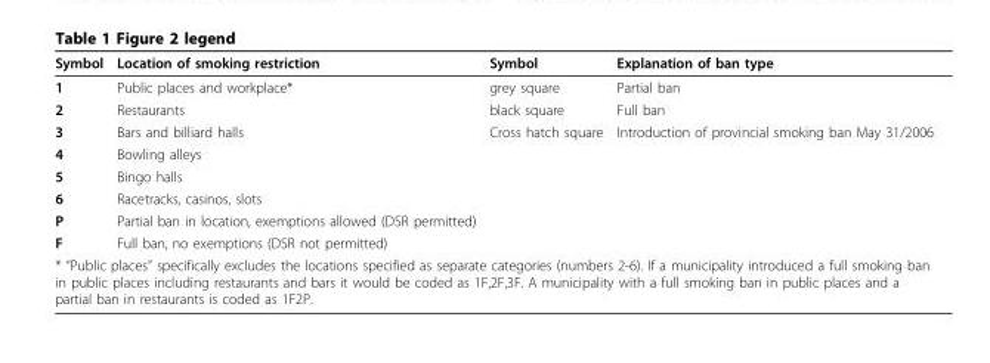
<table><tbody><tr><td>Symbol</td><td>Location of smoking restriction</td><td>Symbol</td><td>Explanation of ban type</td></tr><tr><td>1</td><td>Public places and workplace*</td><td>grey square</td><td>Partial ban</td></tr><tr><td>2</td><td>Restaurants</td><td>black square</td><td>Full ban</td></tr><tr><td>3</td><td>Bars and billiard halls</td><td>Cross hatch square</td><td>Introduction of provincial smoking ban May 31/2006</td></tr><tr><td>4</td><td>Bowling alleys</td><td></td><td></td></tr><tr><td>5</td><td>Bingo halls</td><td></td><td></td></tr><tr><td>6</td><td>Racetracks, casinos, slots</td><td></td><td></td></tr><tr><td>P</td><td>Partial ban in location, exemptions allowed (DSR permitted)</td><td></td><td></td></tr><tr><td>F</td><td>Full ban, no exemptions (DSR not permitted)</td><td></td><td></td></tr><tr><td colspan="4">* “Public places” specifically excludes the locations specified as separate categories (numbers 2-6). If a municipality introduced a full smoking ban in public places including restaurants and bars it would be coded as 1F,2F,3F. A municipality with a full smoking ban in public places and a partial ban in restaurants is coded as 1F2P.</td></tr></tbody></table>